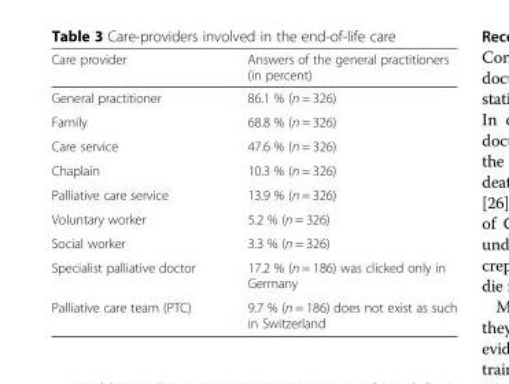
<table><thead><tr><td>Care provider</td><td>Answers of the general practitioners (in percent)</td></tr></thead><tbody><tr><td>General practitioner</td><td>86.1 % (n = 326)</td></tr><tr><td>Family</td><td>68.8 % (n = 326)</td></tr><tr><td>Care service</td><td>47.6 % (n = 326)</td></tr><tr><td>Chaplain</td><td>10.3 % (n = 326)</td></tr><tr><td>Palliative care service</td><td>13.9 % (n = 326)</td></tr><tr><td>Voluntary worker</td><td>5.2 % (n = 326)</td></tr><tr><td>Social worker</td><td>3.3 % (n = 326)</td></tr><tr><td>Specialist palliative doctor</td><td>17.2 % (n = 186) was clicked only in Germany</td></tr><tr><td>Palliative care team (PTC)</td><td>9.7 % (n = 186) does not exist as such in Switzerland</td></tr></tbody></table>